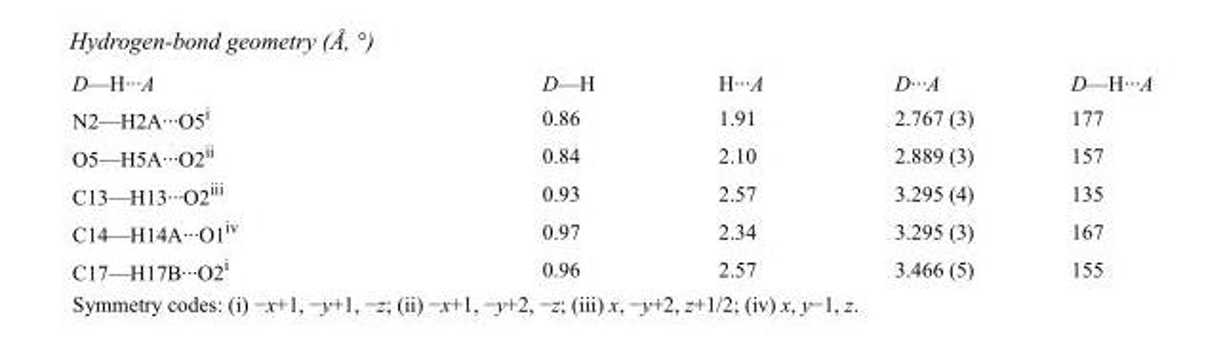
<table><tbody><tr><td>D—H···A</td><td>D—H</td><td>H···A</td><td>D···A</td><td>D—H···A</td></tr><tr><td>N2—H2A···O5<sup>i</sup></td><td>0.86</td><td>1.91</td><td>2.767 (3)</td><td>177</td></tr><tr><td>O5—H5A···O2<sup>ii</sup></td><td>0.84</td><td>2.10</td><td>2.889 (3)</td><td>157</td></tr><tr><td>C13—H13···O2<sup>iii</sup></td><td>0.93</td><td>2.57</td><td>3.295 (4)</td><td>135</td></tr><tr><td>C14—H14A···O1<sup>iv</sup></td><td>0.97</td><td>2.34</td><td>3.295 (3)</td><td>167</td></tr><tr><td>C17—H17B···O2<sup>i</sup></td><td>0.96</td><td>2.57</td><td>3.466 (5)</td><td>155</td></tr></tbody></table>